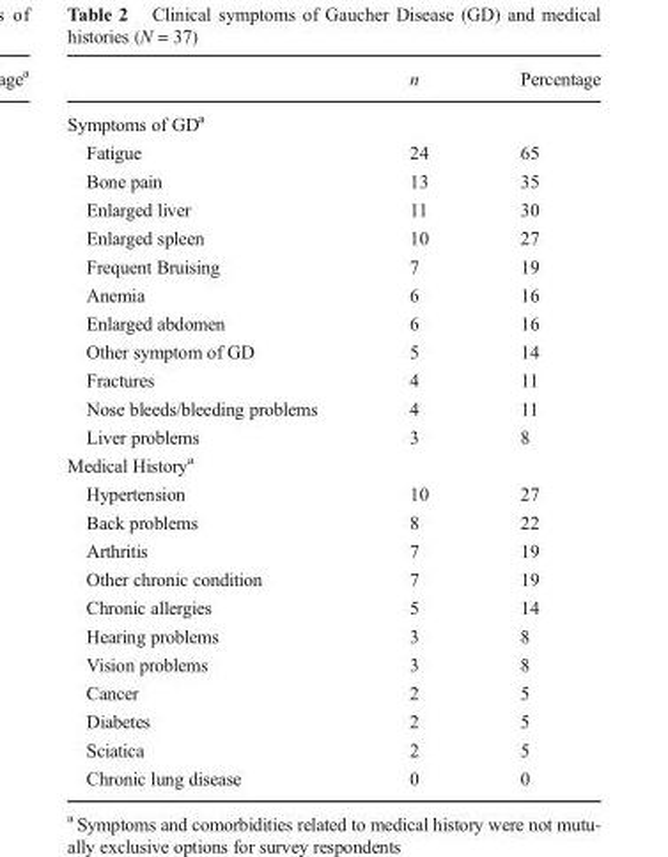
<table><thead><tr><td></td><td>n</td><td>Percentage</td></tr></thead><tbody><tr><td colspan="3">Symptoms of GD<sup>a</sup></td></tr><tr><td>Fatigue</td><td>24</td><td>65</td></tr><tr><td>Bone pain</td><td>13</td><td>35</td></tr><tr><td>Enlarged liver</td><td>11</td><td>30</td></tr><tr><td>Enlarged spleen</td><td>10</td><td>27</td></tr><tr><td>Frequent Bruising</td><td>7</td><td>19</td></tr><tr><td>Anemia</td><td>6</td><td>16</td></tr><tr><td>Enlarged abdomen</td><td>6</td><td>16</td></tr><tr><td>Other symptom of GD</td><td>5</td><td>14</td></tr><tr><td>Fractures</td><td>4</td><td>11</td></tr><tr><td>Nose bleeds/bleeding problems</td><td>4</td><td>11</td></tr><tr><td>Liver problems</td><td>3</td><td>8</td></tr><tr><td colspan="3">Medical History<sup>a</sup></td></tr><tr><td>Hypertension</td><td>10</td><td>27</td></tr><tr><td>Back problems</td><td>8</td><td>22</td></tr><tr><td>Arthritis</td><td>7</td><td>19</td></tr><tr><td>Other chronic condition</td><td>7</td><td>19</td></tr><tr><td>Chronic allergies</td><td>5</td><td>14</td></tr><tr><td>Hearing problems</td><td>3</td><td>8</td></tr><tr><td>Vision problems</td><td>3</td><td>8</td></tr><tr><td>Cancer</td><td>2</td><td>5</td></tr><tr><td>Diabetes</td><td>2</td><td>5</td></tr><tr><td>Sciatica</td><td>2</td><td>5</td></tr><tr><td>Chronic lung disease</td><td>0</td><td>0</td></tr></tbody></table>